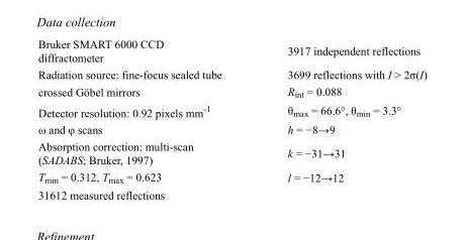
<table><tbody><tr><td>Bruker SMART 6000 CCD diffractometer</td><td>3917 independent reflections</td></tr><tr><td>Radiation source: fine-focus sealed tube</td><td>3699 reflections with I &gt; 2σ(I)</td></tr><tr><td>crossed Göbel mirrors</td><td>R<sub>int</sub> = 0.088</td></tr><tr><td>Detector resolution: 0.92 pixels mm<sup>-1</sup></td><td>θ<sub>max</sub> = 66.6°, θ<sub>min</sub> = 3.3°</td></tr><tr><td>ω and φ scans</td><td>h = −8→9</td></tr><tr><td>Absorption correction: multi-scan (SADABS; Bruker, 1997)</td><td>k = −31→31</td></tr><tr><td>T<sub>min</sub> = 0.312, T<sub>max</sub> = 0.623</td><td>l = −12→12</td></tr><tr><td>31612 measured reflections</td><td></td></tr></tbody></table>